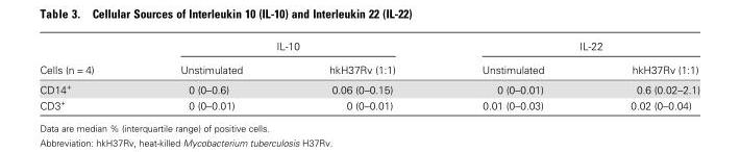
<table><thead><tr><td rowspan="2">Cells (n = 4)</td><td colspan="2">IL-10</td><td colspan="2">IL-22</td></tr><tr><td>Unstimulated</td><td>hkH37Rv (1:1)</td><td>Unstimulated</td><td>hkH37Rv (1:1)</td></tr></thead><tbody><tr><td>CD14<sup>+</sup></td><td>0 (0–0.6)</td><td>0.06 (0–0.15)</td><td>0 (0–0.01)</td><td>0.6 (0.02–2.1)</td></tr><tr><td>CD3<sup>+</sup></td><td>0 (0–0.01)</td><td>0 (0–0.01)</td><td>0.01 (0–0.03)</td><td>0.02 (0–0.04)</td></tr></tbody></table>